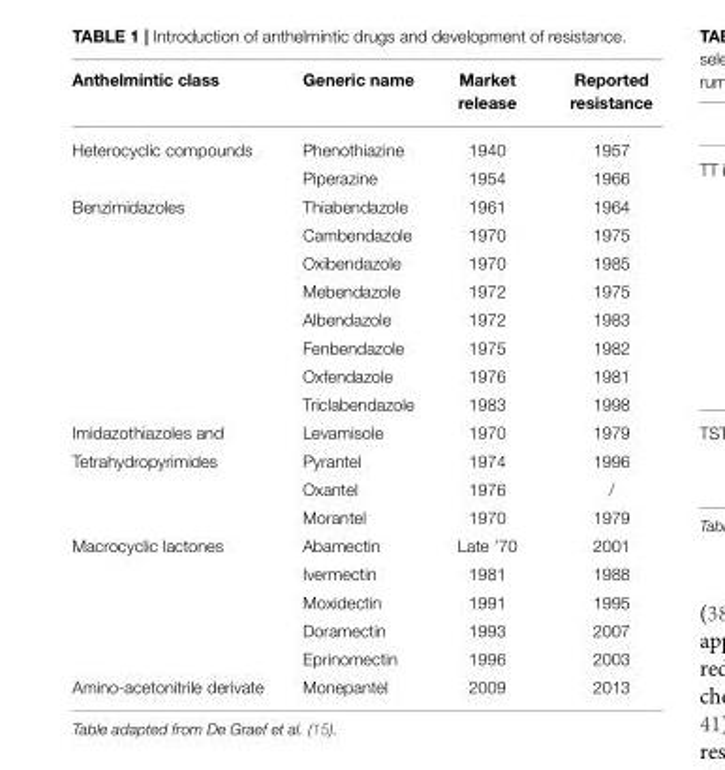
<table><thead><tr><td>Anthelmintic class</td><td>Generic name</td><td>Market release</td><td>Reported resistance</td></tr></thead><tbody><tr><td rowspan="2">Heterocyclic compounds</td><td>Phenothiazine</td><td>1940</td><td>1957</td></tr><tr><td>Piperazine</td><td>1954</td><td>1966</td></tr><tr><td rowspan="8">Benzimidazoles</td><td>Thiabendazole</td><td>1961</td><td>1964</td></tr><tr><td>Cambendazole</td><td>1970</td><td>1975</td></tr><tr><td>Oxibendazole</td><td>1970</td><td>1985</td></tr><tr><td>Mebendazole</td><td>1972</td><td>1975</td></tr><tr><td>Albendazole</td><td>1972</td><td>1983</td></tr><tr><td>Fenbendazole</td><td>1975</td><td>1982</td></tr><tr><td>Oxfendazole</td><td>1976</td><td>1981</td></tr><tr><td>Triclabendazole</td><td>1983</td><td>1998</td></tr><tr><td>Imidazothiazoles and</td><td>Levamisole</td><td>1970</td><td>1979</td></tr><tr><td rowspan="3">Tetrahydropyrimides</td><td>Pyrantel</td><td>1974</td><td>1996</td></tr><tr><td>Oxantel</td><td>1976</td><td>/</td></tr><tr><td>Morantel</td><td>1970</td><td>1979</td></tr><tr><td rowspan="5">Macrocyclic lactones</td><td>Abamectin</td><td>Late ’70</td><td>2001</td></tr><tr><td>Ivermectin</td><td>1981</td><td>1988</td></tr><tr><td>Moxidectin</td><td>1991</td><td>1995</td></tr><tr><td>Doramectin</td><td>1993</td><td>2007</td></tr><tr><td>Eprinomectin</td><td>1996</td><td>2003</td></tr><tr><td>Amino-acetonitrile derivate</td><td>Monepantel</td><td>2009</td><td>2013</td></tr></tbody></table>